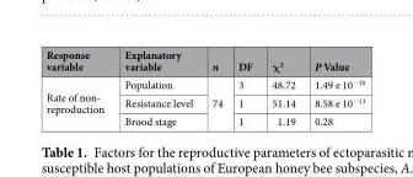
<table><thead><tr><td>Response variable</td><td>Explanatory variable</td><td>n</td><td>DF</td><td>χ<sup>2</sup></td><td>P Value</td></tr></thead><tbody><tr><td rowspan="3">Rate of non- reproduction</td><td>Population</td><td rowspan="3">74</td><td>3</td><td>48.72</td><td>1.49 e 10<sup>−10</sup></td></tr><tr><td>Resistance level</td><td>1</td><td>51.14</td><td>8.58 e 10<sup>−13</sup></td></tr><tr><td>Brood stage</td><td>1</td><td>1.19</td><td>0.28</td></tr></tbody></table>